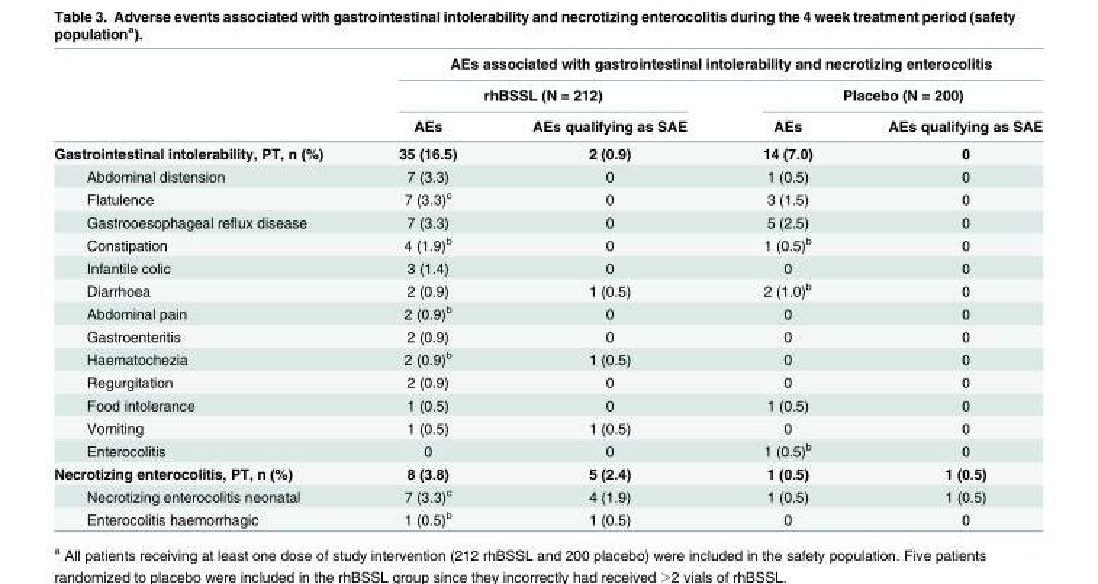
<table><thead><tr><td rowspan="3"></td><td colspan="4">AEs associated with gastrointestinal intolerability and necrotizing enterocolitis</td></tr><tr><td colspan="2">rhBSSL (N = 212)</td><td colspan="2">Placebo (N = 200)</td></tr><tr><td>AEs</td><td>AEs qualifying as SAE</td><td>AEs</td><td>AEs qualifying as SAE</td></tr></thead><tbody><tr><td>Gastrointestinal intolerability, PT, n (%)</td><td>35 (16.5)</td><td>2 (0.9)</td><td>14 (7.0)</td><td>0</td></tr><tr><td>Abdominal distension</td><td>7 (3.3)</td><td>0</td><td>1 (0.5)</td><td>0</td></tr><tr><td>Flatulence</td><td>7 (3.3)<sup>c</sup></td><td>0</td><td>3 (1.5)</td><td>0</td></tr><tr><td>Gastrooesophageal reflux disease</td><td>7 (3.3)</td><td>0</td><td>5 (2.5)</td><td>0</td></tr><tr><td>Constipation</td><td>4 (1.9)<sup>b</sup></td><td>0</td><td>1 (0.5)<sup>b</sup></td><td>0</td></tr><tr><td>Infantile colic</td><td>3 (1.4)</td><td>0</td><td>0</td><td>0</td></tr><tr><td>Diarrhoea</td><td>2 (0.9)</td><td>1 (0.5)</td><td>2 (1.0)<sup>b</sup></td><td>0</td></tr><tr><td>Abdominal pain</td><td>2 (0.9)<sup>b</sup></td><td>0</td><td>0</td><td>0</td></tr><tr><td>Gastroenteritis</td><td>2 (0.9)</td><td>0</td><td>0</td><td>0</td></tr><tr><td>Haematochezia</td><td>2 (0.9)<sup>b</sup></td><td>1 (0.5)</td><td>0</td><td>0</td></tr><tr><td>Regurgitation</td><td>2 (0.9)</td><td>0</td><td>0</td><td>0</td></tr><tr><td>Food intolerance</td><td>1 (0.5)</td><td>0</td><td>1 (0.5)</td><td>0</td></tr><tr><td>Vomiting</td><td>1 (0.5)</td><td>1 (0.5)</td><td>0</td><td>0</td></tr><tr><td>Enterocolitis</td><td>0</td><td>0</td><td>1 (0.5)<sup>b</sup></td><td>0</td></tr><tr><td>Necrotizing enterocolitis, PT, n (%)</td><td>8 (3.8)</td><td>5 (2.4)</td><td>1 (0.5)</td><td>1 (0.5)</td></tr><tr><td>Necrotizing enterocolitis neonatal</td><td>7 (3.3)<sup>c</sup></td><td>4 (1.9)</td><td>1 (0.5)</td><td>1 (0.5)</td></tr><tr><td>Enterocolitis haemorrhagic</td><td>1 (0.5)<sup>b</sup></td><td>1 (0.5)</td><td>0</td><td>0</td></tr></tbody></table>